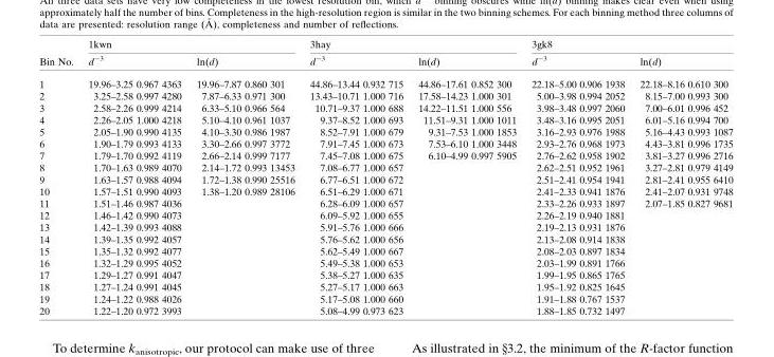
<table><thead><tr><td rowspan="2">Bin No.</td><td colspan="2">1kwn</td><td colspan="2">3hay</td><td colspan="2">3gk8</td></tr><tr><td>d<sup>−3</sup></td><td>ln(d)</td><td>d<sup>−3</sup></td><td>ln(d)</td><td>d<sup>−3</sup></td><td>ln(d)</td></tr></thead><tbody><tr><td>1</td><td>19.96–3.25 0.967 4363</td><td>19.96–7.87 0.860 301</td><td>44.86–13.44 0.932 715</td><td>44.86–17.61 0.852 300</td><td>22.18–5.00 0.906 1938</td><td>22.18–8.16 0.610 300</td></tr><tr><td>2</td><td>3.25–2.58 0.997 4280</td><td>7.87–6.33 0.971 300</td><td>13.43–10.71 1.000 716</td><td>17.58–14.23 1.000 301</td><td>5.00–3.98 0.994 2052</td><td>8.15–7.00 0.993 300</td></tr><tr><td>3</td><td>2.58–2.26 0.999 4214</td><td>6.33–5.10 0.966 564</td><td>10.71–9.37 1.000 688</td><td>14.22–11.51 1.000 556</td><td>3.98–3.48 0.997 2060</td><td>7.00–6.01 0.996 452</td></tr><tr><td>4</td><td>2.26–2.05 1.000 4218</td><td>5.10–4.10 0.961 1037</td><td>9.37–8.52 1.000 693</td><td>11.51–9.31 1.000 1011</td><td>3.48–3.16 0.995 2051</td><td>6.01–5.16 0.994 700</td></tr><tr><td>5</td><td>2.05–1.90 0.990 4135</td><td>4.10–3.30 0.986 1987</td><td>8.52–7.91 1.000 679</td><td>9.31–7.53 1.000 1853</td><td>3.16–2.93 0.976 1988</td><td>5.16–4.43 0.993 1087</td></tr><tr><td>6</td><td>1.90–1.79 0.993 4133</td><td>3.30–2.66 0.997 3772</td><td>7.91–7.45 1.000 673</td><td>7.53–6.10 1.000 3448</td><td>2.93–2.76 0.968 1973</td><td>4.43–3.81 0.996 1735</td></tr><tr><td>7</td><td>1.79–1.70 0.992 4119</td><td>2.66–2.14 0.999 7177</td><td>7.45–7.08 1.000 675</td><td>6.10–4.99 0.997 5905</td><td>2.76–2.62 0.958 1902</td><td>3.81–3.27 0.996 2716</td></tr><tr><td>8</td><td>1.70–1.63 0.989 4070</td><td>2.14–1.72 0.993 13453</td><td>7.08–6.77 1.000 657</td><td></td><td>2.62–2.51 0.952 1961</td><td>3.27–2.81 0.979 4149</td></tr><tr><td>9</td><td>1.63–1.57 0.988 4094</td><td>1.72–1.38 0.990 25516</td><td>6.77–6.51 1.000 672</td><td></td><td>2.51–2.41 0.954 1941</td><td>2.81–2.41 0.955 6410</td></tr><tr><td>10</td><td>1.57–1.51 0.990 4093</td><td>1.38–1.20 0.989 28106</td><td>6.51–6.29 1.000 671</td><td></td><td>2.41–2.33 0.941 1876</td><td>2.41–2.07 0.931 9748</td></tr><tr><td>11</td><td>1.51–1.46 0.987 4036</td><td></td><td>6.28–6.09 1.000 657</td><td></td><td>2.33–2.26 0.933 1897</td><td>2.07–1.85 0.827 9681</td></tr><tr><td>12</td><td>1.46–1.42 0.990 4073</td><td></td><td>6.09–5.92 1.000 655</td><td></td><td>2.26–2.19 0.940 1881</td><td></td></tr><tr><td>13</td><td>1.42–1.39 0.993 4088</td><td></td><td>5.91–5.76 1.000 666</td><td></td><td>2.19–2.13 0.931 1876</td><td></td></tr><tr><td>14</td><td>1.39–1.35 0.992 4057</td><td></td><td>5.76–5.62 1.000 656</td><td></td><td>2.13–2.08 0.914 1838</td><td></td></tr><tr><td>15</td><td>1.35–1.32 0.992 4077</td><td></td><td>5.62–5.49 1.000 667</td><td></td><td>2.08–2.03 0.897 1834</td><td></td></tr><tr><td>16</td><td>1.32–1.29 0.995 4052</td><td></td><td>5.49–5.38 1.000 653</td><td></td><td>2.03–1.99 0.891 1766</td><td></td></tr><tr><td>17</td><td>1.29–1.27 0.991 4047</td><td></td><td>5.38–5.27 1.000 635</td><td></td><td>1.99–1.95 0.865 1765</td><td></td></tr><tr><td>18</td><td>1.27–1.24 0.991 4045</td><td></td><td>5.27–5.17 1.000 663</td><td></td><td>1.95–1.92 0.825 1645</td><td></td></tr><tr><td>19</td><td>1.24–1.22 0.988 4026</td><td></td><td>5.17–5.08 1.000 660</td><td></td><td>1.91–1.88 0.767 1537</td><td></td></tr><tr><td>20</td><td>1.22–1.20 0.972 3993</td><td></td><td>5.08–4.99 0.973 623</td><td></td><td>1.88–1.85 0.732 1497</td><td></td></tr></tbody></table>